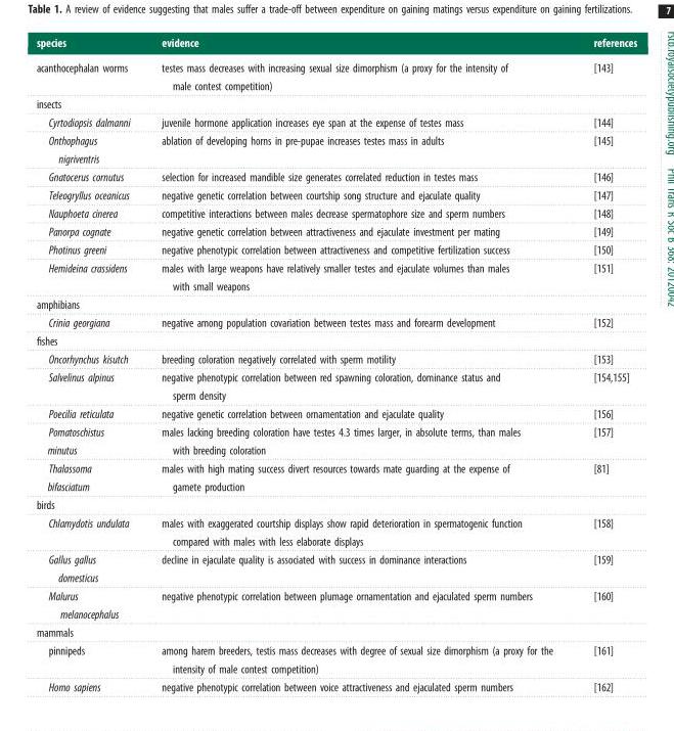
<table><thead><tr><td>species</td><td>evidence</td><td>references</td></tr></thead><tbody><tr><td>acanthocephalan worms</td><td>testes mass decreases with increasing sexual size dimorphism (a proxy for the intensity of male contest competition)</td><td>[143]</td></tr><tr><td colspan="3">insects</td></tr><tr><td>Cyrtodiopsis dalmanni</td><td>juvenile hormone application increases eye span at the expense of testes mass</td><td>[144]</td></tr><tr><td>Onthophagus nigriventris</td><td>ablation of developing horns in pre-pupae increases testes mass in adults</td><td>[145]</td></tr><tr><td>Gnatocerus cornutus</td><td>selection for increased mandible size generates correlated reduction in testes mass</td><td>[146]</td></tr><tr><td>Teleogryllus oceanicus</td><td>negative genetic correlation between courtship song structure and ejaculate quality</td><td>[147]</td></tr><tr><td>Nauphoeta cinerea</td><td>competitive interactions between males decrease spermatophore size and sperm numbers</td><td>[148]</td></tr><tr><td>Panorpa cognate</td><td>negative genetic correlation between attractiveness and ejaculate investment per mating</td><td>[149]</td></tr><tr><td>Photinus greeni</td><td>negative phenotypic correlation between attractiveness and competitive fertilization success</td><td>[150]</td></tr><tr><td>Hemideina crassidens</td><td>males with large weapons have relatively smaller testes and ejaculate volumes than males with small weapons</td><td>[151]</td></tr><tr><td colspan="3">amphibians</td></tr><tr><td>Crinia georgiana</td><td>negative among population covariation between testes mass and forearm development</td><td>[152]</td></tr><tr><td colspan="3">fishes</td></tr><tr><td>Oncorhynchus kisutch</td><td>breeding coloration negatively correlated with sperm motility</td><td>[153]</td></tr><tr><td>Salvelinus alpinus</td><td>negative phenotypic correlation between red spawning coloration, dominance status and sperm density</td><td>[154,155]</td></tr><tr><td>Poecilia reticulata</td><td>negative genetic correlation between ornamentation and ejaculate quality</td><td>[156]</td></tr><tr><td>Pomatoschistus minutus</td><td>males lacking breeding coloration have testes 4.3 times larger, in absolute terms, than males with breeding coloration</td><td>[157]</td></tr><tr><td>Thalassoma bifasciatum</td><td>males with high mating success divert resources towards mate guarding at the expense of gamete production</td><td>[81]</td></tr><tr><td colspan="3">birds</td></tr><tr><td>Chlamydotis undulata</td><td>males with exaggerated courtship displays show rapid deterioration in spermatogenic function compared with males with less elaborate displays</td><td>[158]</td></tr><tr><td>Gallus gallus domesticus</td><td>decline in ejaculate quality is associated with success in dominance interactions</td><td>[159]</td></tr><tr><td>Malurus melanocephalus</td><td>negative phenotypic correlation between plumage ornamentation and ejaculated sperm numbers</td><td>[160]</td></tr><tr><td colspan="3">mammals</td></tr><tr><td>pinnipeds</td><td>among harem breeders, testis mass decreases with degree of sexual size dimorphism (a proxy for the intensity of male contest competition)</td><td>[161]</td></tr><tr><td>Homo sapiens</td><td>negative phenotypic correlation between voice attractiveness and ejaculated sperm numbers</td><td>[162]</td></tr></tbody></table>